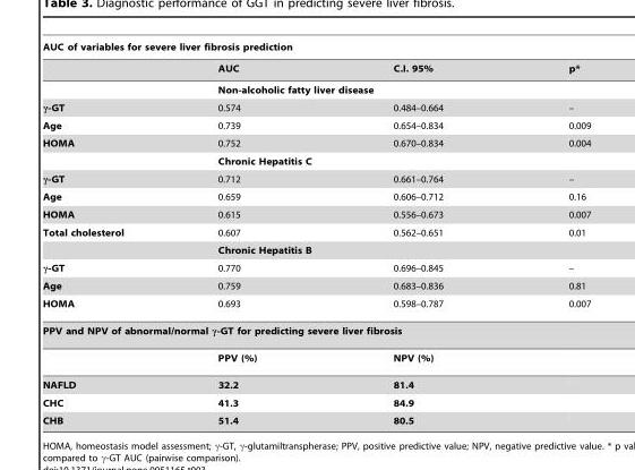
<table><thead><tr><td colspan="4">AUC of variables for severe liver fibrosis prediction</td></tr><tr><td></td><td>AUC</td><td>C.I. 95%</td><td>p*</td></tr></thead><tbody><tr><td></td><td colspan="3">Non-alcoholic fatty liver disease</td></tr><tr><td>γ-GT</td><td>0.574</td><td>0.484–0.664</td><td>–</td></tr><tr><td>Age</td><td>0.739</td><td>0.654–0.834</td><td>0.009</td></tr><tr><td rowspan="2">HOMA</td><td>0.752</td><td>0.670–0.834</td><td>0.004</td></tr><tr><td colspan="3">Chronic Hepatitis C</td></tr><tr><td>γ-GT</td><td>0.712</td><td>0.661–0.764</td><td>–</td></tr><tr><td>Age</td><td>0.659</td><td>0.606–0.712</td><td>0.16</td></tr><tr><td>HOMA</td><td>0.615</td><td>0.556–0.673</td><td>0.007</td></tr><tr><td rowspan="2">Total cholesterol</td><td>0.607</td><td>0.562–0.651</td><td>0.01</td></tr><tr><td colspan="3">Chronic Hepatitis B</td></tr><tr><td>γ-GT</td><td>0.770</td><td>0.696–0.845</td><td>–</td></tr><tr><td>Age</td><td>0.759</td><td>0.683–0.836</td><td>0.81</td></tr><tr><td>HOMA</td><td>0.693</td><td>0.598–0.787</td><td>0.007</td></tr><tr><td colspan="4">PPV and NPV of abnormal/normal γ-GT for predicting severe liver fibrosis</td></tr><tr><td></td><td>PPV (%)</td><td>NPV (%)</td><td></td></tr><tr><td>NAFLD</td><td>32.2</td><td>81.4</td><td></td></tr><tr><td>CHC</td><td>41.3</td><td>84.9</td><td></td></tr><tr><td>CHB</td><td>51.4</td><td>80.5</td><td></td></tr></tbody></table>